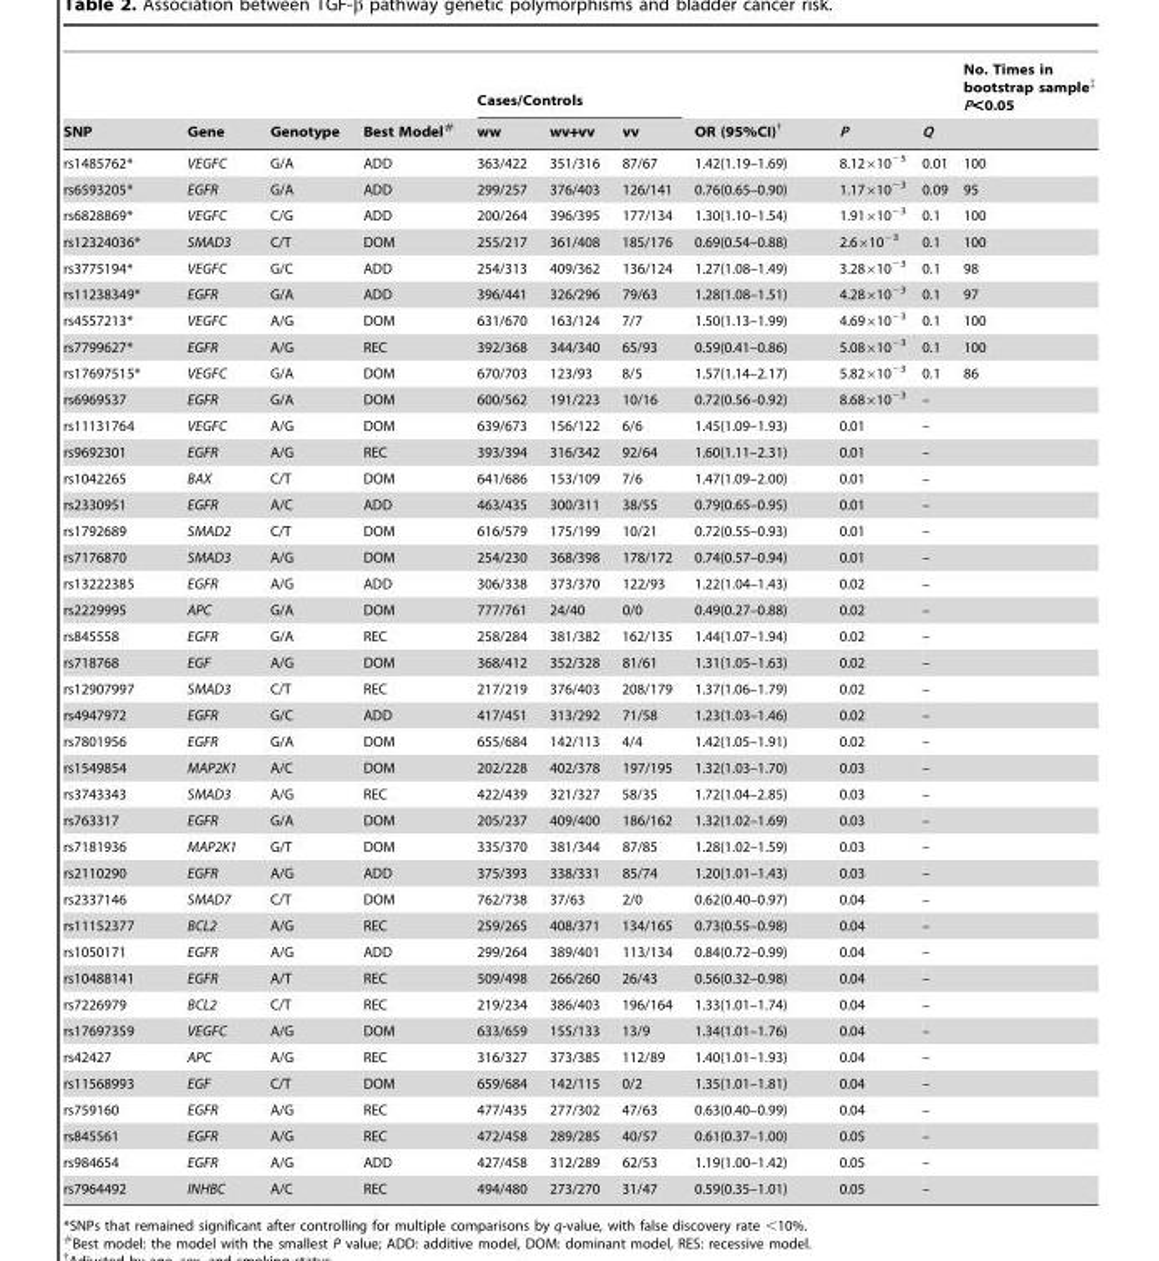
<table><thead><tr><td rowspan="2">SNP</td><td rowspan="2">Gene</td><td rowspan="2">Genotype</td><td rowspan="2">Best Model#</td><td colspan="3">Cases/Controls</td><td rowspan="2">OR (95%CI)†</td><td rowspan="2">P</td><td rowspan="2">Q</td><td rowspan="2">No. Times in bootstrap sample‡ P&lt;0.05</td></tr><tr><td>ww</td><td>wv+vv</td><td>vv</td></tr></thead><tbody><tr><td>rs1485762*</td><td>VEGFC</td><td>G/A</td><td>ADD</td><td>363/422</td><td>351/316</td><td>87/67</td><td>1.42(1.19–1.69)</td><td>8.12×10<sup>−5</sup></td><td>0.01</td><td>100</td></tr><tr><td>rs6593205*</td><td>EGFR</td><td>G/A</td><td>ADD</td><td>299/257</td><td>376/403</td><td>126/141</td><td>0.76(0.65–0.90)</td><td>1.17×10<sup>−3</sup></td><td>0.09</td><td>95</td></tr><tr><td>rs6828869*</td><td>VEGFC</td><td>C/G</td><td>ADD</td><td>200/264</td><td>396/395</td><td>177/134</td><td>1.30(1.10–1.54)</td><td>1.91×10<sup>−3</sup></td><td>0.1</td><td>100</td></tr><tr><td>rs12324036*</td><td>SMAD3</td><td>C/T</td><td>DOM</td><td>255/217</td><td>361/408</td><td>185/176</td><td>0.69(0.54–0.88)</td><td>2.6×10<sup>−3</sup></td><td>0.1</td><td>100</td></tr><tr><td>rs3775194*</td><td>VEGFC</td><td>G/C</td><td>ADD</td><td>254/313</td><td>409/362</td><td>136/124</td><td>1.27(1.08–1.49)</td><td>3.28×10<sup>−3</sup></td><td>0.1</td><td>98</td></tr><tr><td>rs11238349*</td><td>EGFR</td><td>G/A</td><td>ADD</td><td>396/441</td><td>326/296</td><td>79/63</td><td>1.28(1.08–1.51)</td><td>4.28×10<sup>−3</sup></td><td>0.1</td><td>97</td></tr><tr><td>rs4557213*</td><td>VEGFC</td><td>A/G</td><td>DOM</td><td>631/670</td><td>163/124</td><td>7/7</td><td>1.50(1.13–1.99)</td><td>4.69×10<sup>−3</sup></td><td>0.1</td><td>100</td></tr><tr><td>rs7799627*</td><td>EGFR</td><td>A/G</td><td>REC</td><td>392/368</td><td>344/340</td><td>65/93</td><td>0.59(0.41–0.86)</td><td>5.08×10<sup>−3</sup></td><td>0.1</td><td>100</td></tr><tr><td>rs17697515*</td><td>VEGFC</td><td>G/A</td><td>DOM</td><td>670/703</td><td>123/93</td><td>8/5</td><td>1.57(1.14–2.17)</td><td>5.82×10<sup>−3</sup></td><td>0.1</td><td>86</td></tr><tr><td>rs6969537</td><td>EGFR</td><td>G/A</td><td>DOM</td><td>600/562</td><td>191/223</td><td>10/16</td><td>0.72(0.56–0.92)</td><td>8.68×10<sup>−3</sup></td><td>–</td><td></td></tr><tr><td>rs11131764</td><td>VEGFC</td><td>A/G</td><td>DOM</td><td>639/673</td><td>156/122</td><td>6/6</td><td>1.45(1.09–1.93)</td><td>0.01</td><td>–</td><td></td></tr><tr><td>rs9692301</td><td>EGFR</td><td>A/G</td><td>REC</td><td>393/394</td><td>316/342</td><td>92/64</td><td>1.60(1.11–2.31)</td><td>0.01</td><td>–</td><td></td></tr><tr><td>rs1042265</td><td>BAX</td><td>C/T</td><td>DOM</td><td>641/686</td><td>153/109</td><td>7/6</td><td>1.47(1.09–2.00)</td><td>0.01</td><td>–</td><td></td></tr><tr><td>rs2330951</td><td>EGFR</td><td>A/C</td><td>ADD</td><td>463/435</td><td>300/311</td><td>38/55</td><td>0.79(0.65–0.95)</td><td>0.01</td><td>–</td><td></td></tr><tr><td>rs1792689</td><td>SMAD2</td><td>C/T</td><td>DOM</td><td>616/579</td><td>175/199</td><td>10/21</td><td>0.72(0.55–0.93)</td><td>0.01</td><td>–</td><td></td></tr><tr><td>rs7176870</td><td>SMAD3</td><td>A/G</td><td>DOM</td><td>254/230</td><td>368/398</td><td>178/172</td><td>0.74(0.57–0.94)</td><td>0.01</td><td>–</td><td></td></tr><tr><td>rs13222385</td><td>EGFR</td><td>A/G</td><td>ADD</td><td>306/338</td><td>373/370</td><td>122/93</td><td>1.22(1.04–1.43)</td><td>0.02</td><td>–</td><td></td></tr><tr><td>rs2229995</td><td>APC</td><td>G/A</td><td>DOM</td><td>777/761</td><td>24/40</td><td>0/0</td><td>0.49(0.27–0.88)</td><td>0.02</td><td>–</td><td></td></tr><tr><td>rs845558</td><td>EGFR</td><td>G/A</td><td>REC</td><td>258/284</td><td>381/382</td><td>162/135</td><td>1.44(1.07–1.94)</td><td>0.02</td><td>–</td><td></td></tr><tr><td>rs718768</td><td>EGF</td><td>A/G</td><td>DOM</td><td>368/412</td><td>352/328</td><td>81/61</td><td>1.31(1.05–1.63)</td><td>0.02</td><td>–</td><td></td></tr><tr><td>rs12907997</td><td>SMAD3</td><td>C/T</td><td>REC</td><td>217/219</td><td>376/403</td><td>208/179</td><td>1.37(1.06–1.79)</td><td>0.02</td><td>–</td><td></td></tr><tr><td>rs4947972</td><td>EGFR</td><td>G/C</td><td>ADD</td><td>417/451</td><td>313/292</td><td>71/58</td><td>1.23(1.03–1.46)</td><td>0.02</td><td>–</td><td></td></tr><tr><td>rs7801956</td><td>EGFR</td><td>G/A</td><td>DOM</td><td>655/684</td><td>142/113</td><td>4/4</td><td>1.42(1.05–1.91)</td><td>0.02</td><td>–</td><td></td></tr><tr><td>rs1549854</td><td>MAP2K1</td><td>A/C</td><td>DOM</td><td>202/228</td><td>402/378</td><td>197/195</td><td>1.32(1.03–1.70)</td><td>0.03</td><td>–</td><td></td></tr><tr><td>rs3743343</td><td>SMAD3</td><td>A/G</td><td>REC</td><td>422/439</td><td>321/327</td><td>58/35</td><td>1.72(1.04–2.85)</td><td>0.03</td><td>–</td><td></td></tr><tr><td>rs763317</td><td>EGFR</td><td>G/A</td><td>DOM</td><td>205/237</td><td>409/400</td><td>186/162</td><td>1.32(1.02–1.69)</td><td>0.03</td><td>–</td><td></td></tr><tr><td>rs7181936</td><td>MAP2K1</td><td>G/T</td><td>DOM</td><td>335/370</td><td>381/344</td><td>87/85</td><td>1.28(1.02–1.59)</td><td>0.03</td><td>–</td><td></td></tr><tr><td>rs2110290</td><td>EGFR</td><td>A/G</td><td>ADD</td><td>375/393</td><td>338/331</td><td>85/74</td><td>1.20(1.01–1.43)</td><td>0.03</td><td>–</td><td></td></tr><tr><td>rs2337146</td><td>SMAD7</td><td>C/T</td><td>DOM</td><td>762/738</td><td>37/63</td><td>2/0</td><td>0.62(0.40–0.97)</td><td>0.04</td><td>–</td><td></td></tr><tr><td>rs11152377</td><td>BCL2</td><td>A/G</td><td>REC</td><td>259/265</td><td>408/371</td><td>134/165</td><td>0.73(0.55–0.98)</td><td>0.04</td><td>–</td><td></td></tr><tr><td>rs1050171</td><td>EGFR</td><td>A/G</td><td>ADD</td><td>299/264</td><td>389/401</td><td>113/134</td><td>0.84(0.72–0.99)</td><td>0.04</td><td>–</td><td></td></tr><tr><td>rs10488141</td><td>EGFR</td><td>A/T</td><td>REC</td><td>509/498</td><td>266/260</td><td>26/43</td><td>0.56(0.32–0.98)</td><td>0.04</td><td>–</td><td></td></tr><tr><td>rs7226979</td><td>BCL2</td><td>C/T</td><td>REC</td><td>219/234</td><td>386/403</td><td>196/164</td><td>1.33(1.01–1.74)</td><td>0.04</td><td>–</td><td></td></tr><tr><td>rs17697359</td><td>VEGFC</td><td>A/G</td><td>DOM</td><td>633/659</td><td>155/133</td><td>13/9</td><td>1.34(1.01–1.76)</td><td>0.04</td><td>–</td><td></td></tr><tr><td>rs42427</td><td>APC</td><td>A/G</td><td>REC</td><td>316/327</td><td>373/385</td><td>112/89</td><td>1.40(1.01–1.93)</td><td>0.04</td><td>–</td><td></td></tr><tr><td>rs11568993</td><td>EGF</td><td>C/T</td><td>DOM</td><td>659/684</td><td>142/115</td><td>0/2</td><td>1.35(1.01–1.81)</td><td>0.04</td><td>–</td><td></td></tr><tr><td>rs759160</td><td>EGFR</td><td>A/G</td><td>REC</td><td>477/435</td><td>277/302</td><td>47/63</td><td>0.63(0.40–0.99)</td><td>0.04</td><td>–</td><td></td></tr><tr><td>rs845561</td><td>EGFR</td><td>A/G</td><td>REC</td><td>472/458</td><td>289/285</td><td>40/57</td><td>0.61(0.37–1.00)</td><td>0.05</td><td>–</td><td></td></tr><tr><td>rs984654</td><td>EGFR</td><td>A/G</td><td>ADD</td><td>427/458</td><td>312/289</td><td>62/53</td><td>1.19(1.00–1.42)</td><td>0.05</td><td>–</td><td></td></tr><tr><td>rs7964492</td><td>INHBC</td><td>A/C</td><td>REC</td><td>494/480</td><td>273/270</td><td>31/47</td><td>0.59(0.35–1.01)</td><td>0.05</td><td>–</td><td></td></tr></tbody></table>